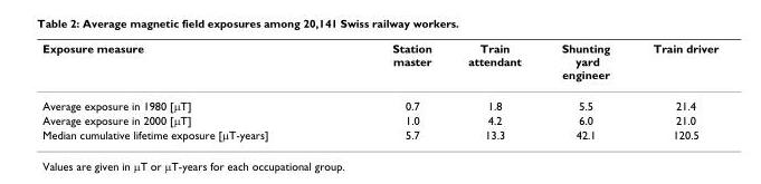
<table><thead><tr><td>Exposure measure</td><td>Station master</td><td>Train attendant</td><td>Shunting yard engineer</td><td>Train driver</td></tr></thead><tbody><tr><td>Average exposure in 1980 [μT]</td><td>0.7</td><td>1.8</td><td>5.5</td><td>21.4</td></tr><tr><td>Average exposure in 2000 [μT]</td><td>1.0</td><td>4.2</td><td>6.0</td><td>21.0</td></tr><tr><td>Median cumulative lifetime exposure [μT-years]</td><td>5.7</td><td>13.3</td><td>42.1</td><td>120.5</td></tr></tbody></table>